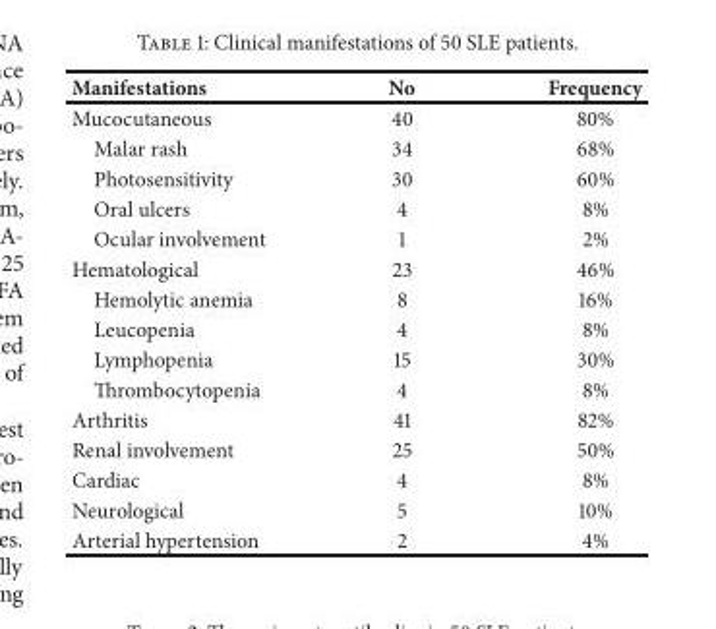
<table><thead><tr><td>Manifestations</td><td>No</td><td>Frequency</td></tr></thead><tbody><tr><td>Mucocutaneous</td><td>40</td><td>80%</td></tr><tr><td>Malar rash</td><td>34</td><td>68%</td></tr><tr><td>Photosensitivity</td><td>30</td><td>60%</td></tr><tr><td>Oral ulcers</td><td>4</td><td>8%</td></tr><tr><td>Ocular involvement</td><td>1</td><td>2%</td></tr><tr><td>Hematological</td><td>23</td><td>46%</td></tr><tr><td>Hemolytic anemia</td><td>8</td><td>16%</td></tr><tr><td>Leucopenia</td><td>4</td><td>8%</td></tr><tr><td>Lymphopenia</td><td>15</td><td>30%</td></tr><tr><td>Thrombocytopenia</td><td>4</td><td>8%</td></tr><tr><td>Arthritis</td><td>41</td><td>82%</td></tr><tr><td>Renal involvement</td><td>25</td><td>50%</td></tr><tr><td>Cardiac</td><td>4</td><td>8%</td></tr><tr><td>Neurological</td><td>5</td><td>10%</td></tr><tr><td>Arterial hypertension</td><td>2</td><td>4%</td></tr></tbody></table>